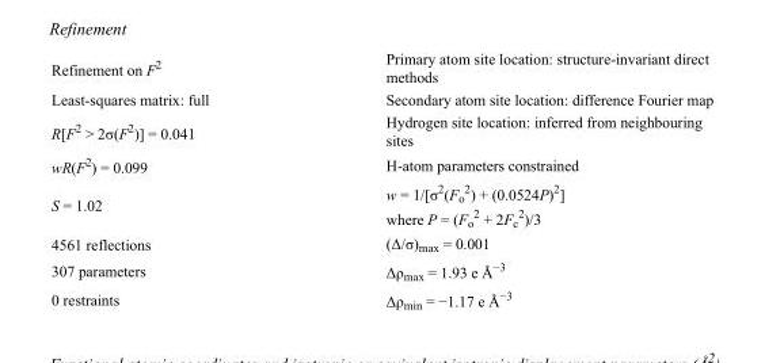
<table><tbody><tr><td>Refinement on F<sup>2</sup></td><td>Primary atom site location: structure-invariant direct methods</td></tr><tr><td>Least-squares matrix: full</td><td>Secondary atom site location: difference Fourier map</td></tr><tr><td>R[F<sup>2</sup> &gt; 2σ(F<sup>2</sup>)] = 0.041</td><td>Hydrogen site location: inferred from neighbouring sites</td></tr><tr><td>wR(F<sup>2</sup>) = 0.099</td><td>H-atom parameters constrained</td></tr><tr><td>S = 1.02</td><td>w = 1/[σ<sup>2</sup>(F<sub>o</sub> <sup>2</sup>) + (0.0524P)<sup>2</sup>] where P = (F<sub>o</sub> <sup>2</sup> + 2F<sub>c</sub> <sup>2</sup>)/3</td></tr><tr><td>4561 reflections</td><td>(Δ/σ)<sub>max</sub> = 0.001</td></tr><tr><td>307 parameters</td><td>Δρ<sub>max</sub> = 1.93 e Å<sup>−3</sup></td></tr><tr><td>0 restraints</td><td>Δρ<sub>min</sub> = −1.17 e Å<sup>−3</sup></td></tr></tbody></table>